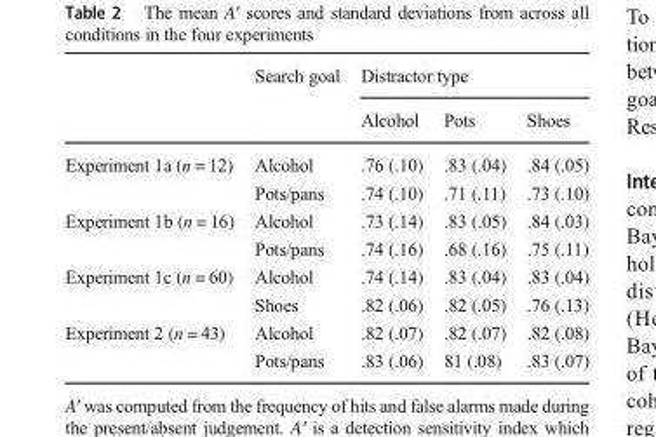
<table><thead><tr><td rowspan="2"></td><td rowspan="2">Search goal</td><td colspan="3">Distractor type</td></tr><tr><td>Alcohol</td><td>Pots</td><td>Shoes</td></tr></thead><tbody><tr><td rowspan="2">Experiment 1a (n = 12)</td><td>Alcohol</td><td>.76 (.10)</td><td>.83 (.04)</td><td>.84 (.05)</td></tr><tr><td>Pots/pans</td><td>.74 (.10)</td><td>.71 (.11)</td><td>.73 (.10)</td></tr><tr><td rowspan="2">Experiment 1b (n = 16)</td><td>Alcohol</td><td>.73 (.14)</td><td>.83 (.05)</td><td>.84 (.03)</td></tr><tr><td>Pots/pans</td><td>.74 (.16)</td><td>.68 (.16)</td><td>.75 (.11)</td></tr><tr><td rowspan="2">Experiment 1c (n = 60)</td><td>Alcohol</td><td>.74 (.14)</td><td>.83 (.04)</td><td>.83 (.04)</td></tr><tr><td>Shoes</td><td>.82 (.06)</td><td>.82 (.05)</td><td>.76 (.13)</td></tr><tr><td rowspan="2">Experiment 2 (n = 43)</td><td>Alcohol</td><td>.82 (.07)</td><td>.82 (.07)</td><td>.82 (.08)</td></tr><tr><td>Pots/pans</td><td>.83 (.06)</td><td>81 (.08)</td><td>.83 (.07)</td></tr></tbody></table>